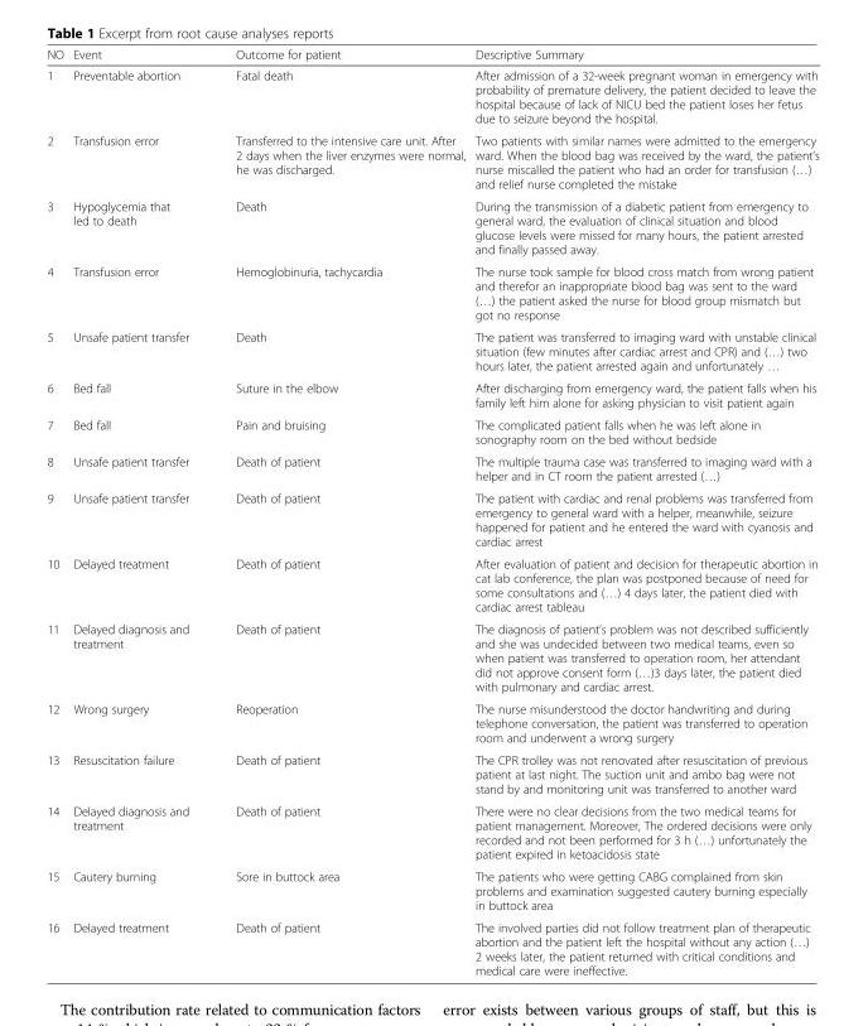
<table><thead><tr><td>NO</td><td>Event</td><td>Outcome for patient</td><td>Descriptive Summary</td></tr></thead><tbody><tr><td>1</td><td>Preventable abortion</td><td>Fatal death</td><td>After admission of a 32-week pregnant woman in emergency with probability of premature delivery, the patient decided to leave the hospital because of lack of NICU bed the patient loses her fetus due to seizure beyond the hospital.</td></tr><tr><td>2</td><td>Transfusion error</td><td>Transferred to the intensive care unit. After 2 days when the liver enzymes were normal, he was discharged.</td><td>Two patients with similar names were admitted to the emergency ward. When the blood bag was received by the ward, the patient’s nurse miscalled the patient who had an order for transfusion (…) and relief nurse completed the mistake</td></tr><tr><td>3</td><td>Hypoglycemia that led to death</td><td>Death</td><td>During the transmission of a diabetic patient from emergency to general ward, the evaluation of clinical situation and blood glucose levels were missed for many hours, the patient arrested and finally passed away.</td></tr><tr><td>4</td><td>Transfusion error</td><td>Hemoglobinuria, tachycardia</td><td>The nurse took sample for blood cross match from wrong patient and therefor an inappropriate blood bag was sent to the ward (…) the patient asked the nurse for blood group mismatch but got no response</td></tr><tr><td>5</td><td>Unsafe patient transfer</td><td>Death</td><td>The patient was transferred to imaging ward with unstable clinical situation (few minutes after cardiac arrest and CPR) and (…) two hours later, the patient arrested again and unfortunately …</td></tr><tr><td>6</td><td>Bed fall</td><td>Suture in the elbow</td><td>After discharging from emergency ward, the patient falls when his family left him alone for asking physician to visit patient again</td></tr><tr><td>7</td><td>Bed fall</td><td>Pain and bruising</td><td>The complicated patient falls when he was left alone in sonography room on the bed without bedside</td></tr><tr><td>8</td><td>Unsafe patient transfer</td><td>Death of patient</td><td>The multiple trauma case was transferred to imaging ward with a helper and in CT room the patient arrested (…)</td></tr><tr><td>9</td><td>Unsafe patient transfer</td><td>Death of patient</td><td>The patient with cardiac and renal problems was transferred from emergency to general ward with a helper, meanwhile, seizure happened for patient and he entered the ward with cyanosis and cardiac arrest</td></tr><tr><td>10</td><td>Delayed treatment</td><td>Death of patient</td><td>After evaluation of patient and decision for therapeutic abortion in cat lab conference, the plan was postponed because of need for some consultations and (…) 4 days later, the patient died with cardiac arrest tableau</td></tr><tr><td>11</td><td>Delayed diagnosis and treatment</td><td>Death of patient</td><td>The diagnosis of patient’s problem was not described sufficiently and she was undecided between two medical teams, even so when patient was transferred to operation room, her attendant did not approve consent form (…)3 days later, the patient died with pulmonary and cardiac arrest.</td></tr><tr><td>12</td><td>Wrong surgery</td><td>Reoperation</td><td>The nurse misunderstood the doctor handwriting and during telephone conversation, the patient was transferred to operation room and underwent a wrong surgery</td></tr><tr><td>13</td><td>Resuscitation failure</td><td>Death of patient</td><td>The CPR trolley was not renovated after resuscitation of previous patient at last night. The suction unit and ambo bag were not stand by and monitoring unit was transferred to another ward</td></tr><tr><td>14</td><td>Delayed diagnosis and treatment</td><td>Death of patient</td><td>There were no clear decisions from the two medical teams for patient management. Moreover, The ordered decisions were only recorded and not been performed for 3 h (…) unfortunately the patient expired in ketoacidosis state</td></tr><tr><td>15</td><td>Cautery burning</td><td>Sore in buttock area</td><td>The patients who were getting CABG complained from skin problems and examination suggested cautery burning especially in buttock area</td></tr><tr><td>16</td><td>Delayed treatment</td><td>Death of patient</td><td>The involved parties did not follow treatment plan of therapeutic abortion and the patient left the hospital without any action (…) 2 weeks later, the patient returned with critical conditions and medical care were ineffective.</td></tr></tbody></table>